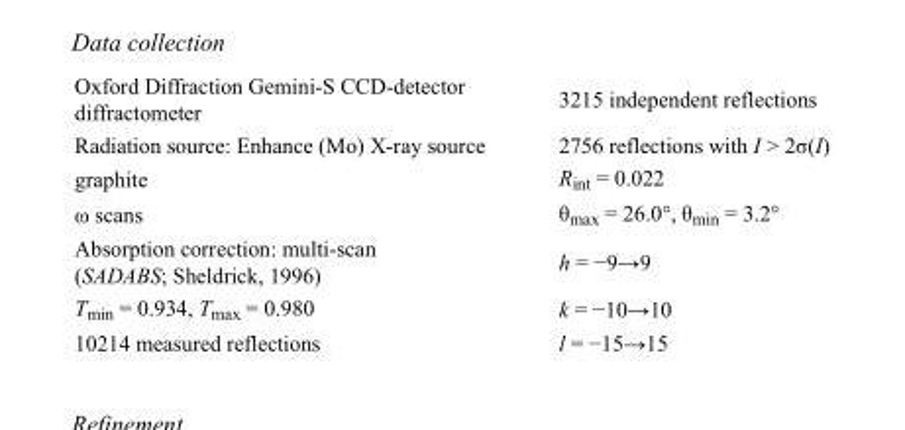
<table><tbody><tr><td>Oxford Diffraction Gemini-S CCD-detector diffractometer</td><td>3215 independent reflections</td></tr><tr><td>Radiation source: Enhance (Mo) X-ray source</td><td>2756 reflections with I &gt; 2σ(I)</td></tr><tr><td>graphite</td><td>R<sub>int</sub> = 0.022</td></tr><tr><td>ω scans</td><td>θ<sub>max</sub> = 26.0°, θ<sub>min</sub> = 3.2°</td></tr><tr><td>Absorption correction: multi-scan (SADABS; Sheldrick, 1996)</td><td>h = −9→9</td></tr><tr><td>T<sub>min</sub> = 0.934, T<sub>max</sub> = 0.980</td><td>k = −10→10</td></tr><tr><td>10214 measured reflections</td><td>l = −15→15</td></tr></tbody></table>